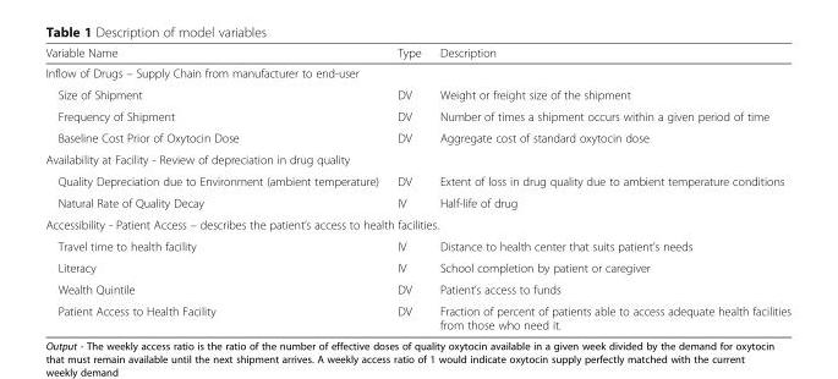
<table><thead><tr><td>Variable Name</td><td>Type</td><td>Description</td></tr></thead><tbody><tr><td colspan="3">Inflow of Drugs – Supply Chain from manufacturer to end-user</td></tr><tr><td>Size of Shipment</td><td>DV</td><td>Weight or freight size of the shipment</td></tr><tr><td>Frequency of Shipment</td><td>DV</td><td>Number of times a shipment occurs within a given period of time</td></tr><tr><td>Baseline Cost Prior of Oxytocin Dose</td><td>DV</td><td>Aggregate cost of standard oxytocin dose</td></tr><tr><td colspan="3">Availability at Facility - Review of depreciation in drug quality</td></tr><tr><td>Quality Depreciation due to Environment (ambient temperature)</td><td>DV</td><td>Extent of loss in drug quality due to ambient temperature conditions</td></tr><tr><td>Natural Rate of Quality Decay</td><td>IV</td><td>Half-life of drug</td></tr><tr><td colspan="3">Accessibility - Patient Access – describes the patient’s access to health facilities.</td></tr><tr><td>Travel time to health facility</td><td>IV</td><td>Distance to health center that suits patient’s needs</td></tr><tr><td>Literacy</td><td>IV</td><td>School completion by patient or caregiver</td></tr><tr><td>Wealth Quintile</td><td>DV</td><td>Patient’s access to funds</td></tr><tr><td>Patient Access to Health Facility</td><td>DV</td><td>Fraction of percent of patients able to access adequate health facilities from those who need it.</td></tr></tbody></table>